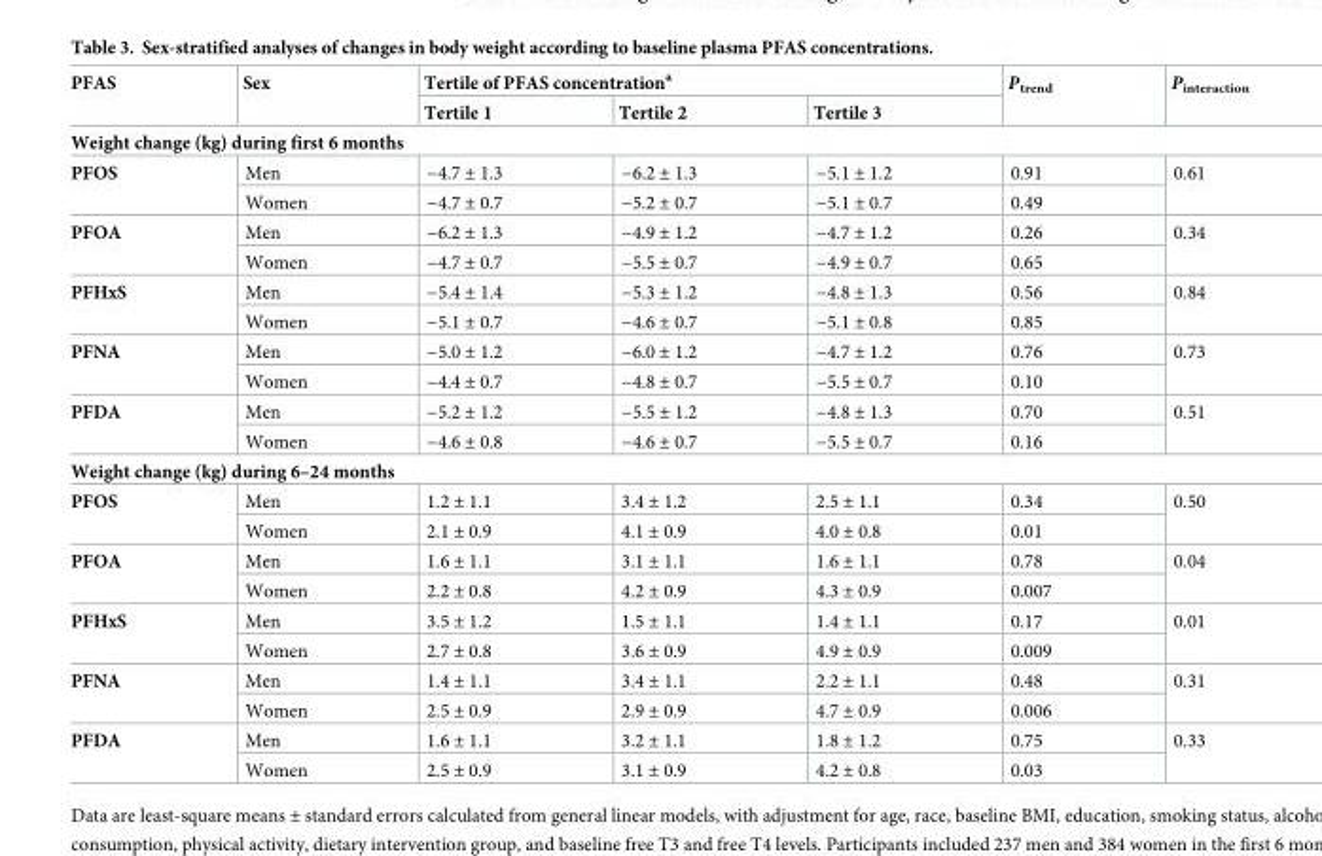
<table><thead><tr><td rowspan="2">PFAS</td><td rowspan="2">Sex</td><td colspan="3">Tertile of PFAS concentration<sup>a</sup></td><td rowspan="2">P<sub>trend</sub></td><td rowspan="2">P<sub>interaction</sub></td></tr><tr><td>Tertile 1</td><td>Tertile 2</td><td>Tertile 3</td></tr></thead><tbody><tr><td colspan="7">Weight change (kg) during first 6 months</td></tr><tr><td rowspan="2">PFOS</td><td>Men</td><td>−4.7 ± 1.3</td><td>−6.2 ± 1.3</td><td>−5.1 ± 1.2</td><td>0.91</td><td rowspan="2">0.61</td></tr><tr><td>Women</td><td>−4.7 ± 0.7</td><td>−5.2 ± 0.7</td><td>−5.1 ± 0.7</td><td>0.49</td></tr><tr><td rowspan="2">PFOA</td><td>Men</td><td>−6.2 ± 1.3</td><td>−4.9 ± 1.2</td><td>−4.7 ± 1.2</td><td>0.26</td><td rowspan="2">0.34</td></tr><tr><td>Women</td><td>−4.7 ± 0.7</td><td>−5.5 ± 0.7</td><td>−4.9 ± 0.7</td><td>0.65</td></tr><tr><td rowspan="2">PFHxS</td><td>Men</td><td>−5.4 ± 1.4</td><td>−5.3 ± 1.2</td><td>−4.8 ± 1.3</td><td>0.56</td><td rowspan="2">0.84</td></tr><tr><td>Women</td><td>−5.1 ± 0.7</td><td>−4.6 ± 0.7</td><td>−5.1 ± 0.8</td><td>0.85</td></tr><tr><td rowspan="2">PFNA</td><td>Men</td><td>−5.0 ± 1.2</td><td>−6.0 ± 1.2</td><td>−4.7 ± 1.2</td><td>0.76</td><td rowspan="2">0.73</td></tr><tr><td>Women</td><td>−4.4 ± 0.7</td><td>−4.8 ± 0.7</td><td>−5.5 ± 0.7</td><td>0.10</td></tr><tr><td rowspan="2">PFDA</td><td>Men</td><td>−5.2 ± 1.2</td><td>−5.5 ± 1.2</td><td>−4.8 ± 1.3</td><td>0.70</td><td rowspan="2">0.51</td></tr><tr><td>Women</td><td>−4.6 ± 0.8</td><td>−4.6 ± 0.7</td><td>−5.5 ± 0.7</td><td>0.16</td></tr><tr><td colspan="7">Weight change (kg) during 6–24 months</td></tr><tr><td rowspan="2">PFOS</td><td>Men</td><td>1.2 ± 1.1</td><td>3.4 ± 1.2</td><td>2.5 ± 1.1</td><td>0.34</td><td rowspan="2">0.50</td></tr><tr><td>Women</td><td>2.1 ± 0.9</td><td>4.1 ± 0.9</td><td>4.0 ± 0.8</td><td>0.01</td></tr><tr><td rowspan="2">PFOA</td><td>Men</td><td>1.6 ± 1.1</td><td>3.1 ± 1.1</td><td>1.6 ± 1.1</td><td>0.78</td><td rowspan="2">0.04</td></tr><tr><td>Women</td><td>2.2 ± 0.8</td><td>4.2 ± 0.9</td><td>4.3 ± 0.9</td><td>0.007</td></tr><tr><td rowspan="2">PFHxS</td><td>Men</td><td>3.5 ± 1.2</td><td>1.5 ± 1.1</td><td>1.4 ± 1.1</td><td>0.17</td><td rowspan="2">0.01</td></tr><tr><td>Women</td><td>2.7 ± 0.8</td><td>3.6 ± 0.9</td><td>4.9 ± 0.9</td><td>0.009</td></tr><tr><td rowspan="2">PFNA</td><td>Men</td><td>1.4 ± 1.1</td><td>3.4 ± 1.1</td><td>2.2 ± 1.1</td><td>0.48</td><td rowspan="2">0.31</td></tr><tr><td>Women</td><td>2.5 ± 0.9</td><td>2.9 ± 0.9</td><td>4.7 ± 0.9</td><td>0.006</td></tr><tr><td rowspan="2">PFDA</td><td>Men</td><td>1.6 ± 1.1</td><td>3.2 ± 1.1</td><td>1.8 ± 1.2</td><td>0.75</td><td rowspan="2">0.33</td></tr><tr><td>Women</td><td>2.5 ± 0.9</td><td>3.1 ± 0.9</td><td>4.2 ± 0.8</td><td>0.03</td></tr></tbody></table>